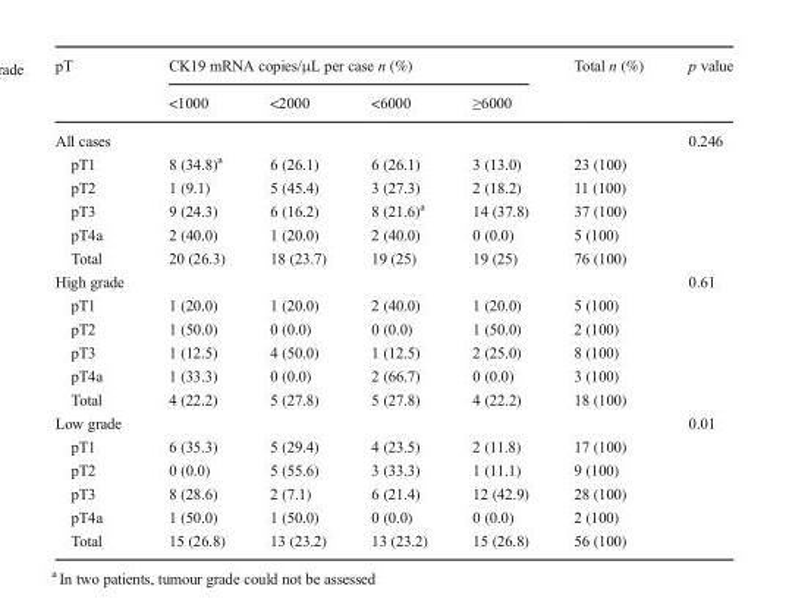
<table><thead><tr><td rowspan="2">pT</td><td colspan="4">CK19 mRNA copies/μL per case n (%)</td><td rowspan="2">Total n (%)</td><td rowspan="2">p value</td></tr><tr><td>&lt;1000</td><td>&lt;2000</td><td>&lt;6000</td><td>≥6000</td></tr></thead><tbody><tr><td>All cases</td><td></td><td></td><td></td><td></td><td></td><td>0.246</td></tr><tr><td>pT1</td><td>8 (34.8)<sup>a</sup></td><td>6 (26.1)</td><td>6 (26.1)</td><td>3 (13.0)</td><td>23 (100)</td><td></td></tr><tr><td>pT2</td><td>1 (9.1)</td><td>5 (45.4)</td><td>3 (27.3)</td><td>2 (18.2)</td><td>11 (100)</td><td></td></tr><tr><td>pT3</td><td>9 (24.3)</td><td>6 (16.2)</td><td>8 (21.6)<sup>a</sup></td><td>14 (37.8)</td><td>37 (100)</td><td></td></tr><tr><td>pT4a</td><td>2 (40.0)</td><td>1 (20.0)</td><td>2 (40.0)</td><td>0 (0.0)</td><td>5 (100)</td><td></td></tr><tr><td>Total</td><td>20 (26.3)</td><td>18 (23.7)</td><td>19 (25)</td><td>19 (25)</td><td>76 (100)</td><td></td></tr><tr><td>High grade</td><td></td><td></td><td></td><td></td><td></td><td>0.61</td></tr><tr><td>pT1</td><td>1 (20.0)</td><td>1 (20.0)</td><td>2 (40.0)</td><td>1 (20.0)</td><td>5 (100)</td><td></td></tr><tr><td>pT2</td><td>1 (50.0)</td><td>0 (0.0)</td><td>0 (0.0)</td><td>1 (50.0)</td><td>2 (100)</td><td></td></tr><tr><td>pT3</td><td>1 (12.5)</td><td>4 (50.0)</td><td>1 (12.5)</td><td>2 (25.0)</td><td>8 (100)</td><td></td></tr><tr><td>pT4a</td><td>1 (33.3)</td><td>0 (0.0)</td><td>2 (66.7)</td><td>0 (0.0)</td><td>3 (100)</td><td></td></tr><tr><td>Total</td><td>4 (22.2)</td><td>5 (27.8)</td><td>5 (27.8)</td><td>4 (22.2)</td><td>18 (100)</td><td></td></tr><tr><td>Low grade</td><td></td><td></td><td></td><td></td><td></td><td>0.01</td></tr><tr><td>pT1</td><td>6 (35.3)</td><td>5 (29.4)</td><td>4 (23.5)</td><td>2 (11.8)</td><td>17 (100)</td><td></td></tr><tr><td>pT2</td><td>0 (0.0)</td><td>5 (55.6)</td><td>3 (33.3)</td><td>1 (11.1)</td><td>9 (100)</td><td></td></tr><tr><td>pT3</td><td>8 (28.6)</td><td>2 (7.1)</td><td>6 (21.4)</td><td>12 (42.9)</td><td>28 (100)</td><td></td></tr><tr><td>pT4a</td><td>1 (50.0)</td><td>1 (50.0)</td><td>0 (0.0)</td><td>0 (0.0)</td><td>2 (100)</td><td></td></tr><tr><td>Total</td><td>15 (26.8)</td><td>13 (23.2)</td><td>13 (23.2)</td><td>15 (26.8)</td><td>56 (100)</td><td></td></tr></tbody></table>